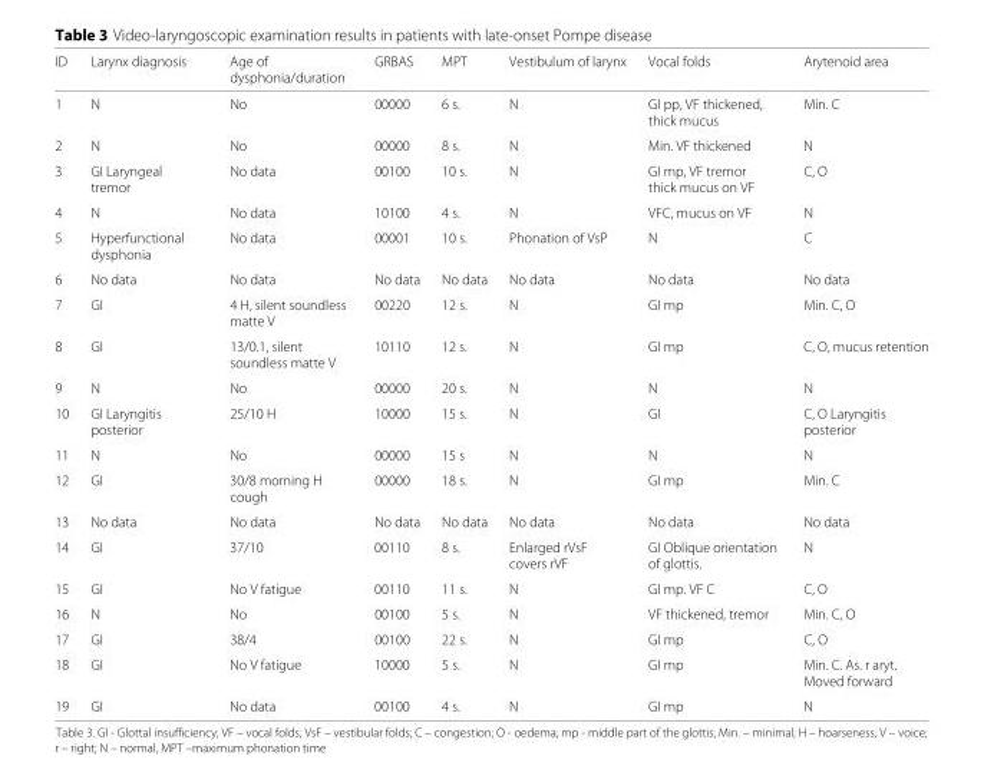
<table><thead><tr><td>ID</td><td>Larynx diagnosis</td><td>Age of dysphonia/duration</td><td>GRBAS</td><td>MPT</td><td>Vestibulum of larynx</td><td>Vocal folds</td><td>Arytenoid area</td></tr></thead><tbody><tr><td>1</td><td>N</td><td>No</td><td>00000</td><td>6 s.</td><td>N</td><td>GI pp, VF thickened, thick mucus</td><td>Min. C</td></tr><tr><td>2</td><td>N</td><td>No</td><td>00000</td><td>8 s.</td><td>N</td><td>Min. VF thickened</td><td>N</td></tr><tr><td>3</td><td>GI Laryngeal tremor</td><td>No data</td><td>00100</td><td>10 s.</td><td>N</td><td>GI mp, VF tremor thick mucus on VF</td><td>C, O</td></tr><tr><td>4</td><td>N</td><td>No data</td><td>10100</td><td>4 s.</td><td>N</td><td>VFC, mucus on VF</td><td>N</td></tr><tr><td>5</td><td>Hyperfunctional dysphonia</td><td>No data</td><td>00001</td><td>10 s.</td><td>Phonation of VsP</td><td>N</td><td>C</td></tr><tr><td>6</td><td>No data</td><td>No data</td><td>No data</td><td>No data</td><td>No data</td><td>No data</td><td>No data</td></tr><tr><td>7</td><td>GI</td><td>4 H, silent soundless matte V</td><td>00220</td><td>12 s.</td><td>N</td><td>GI mp</td><td>Min. C, O</td></tr><tr><td>8</td><td>GI</td><td>13/0.1, silent soundless matte V</td><td>10110</td><td>12 s.</td><td>N</td><td>GI mp</td><td>C, O, mucus retention</td></tr><tr><td>9</td><td>N</td><td>No</td><td>00000</td><td>20 s.</td><td>N</td><td>N</td><td>N</td></tr><tr><td>10</td><td>GI Laryngitis posterior</td><td>25/10 H</td><td>10000</td><td>15 s.</td><td>N</td><td>GI</td><td>C, O Laryngitis posterior</td></tr><tr><td>11</td><td>N</td><td>No</td><td>00000</td><td>15 s</td><td>N</td><td>N</td><td>N</td></tr><tr><td>12</td><td>GI</td><td>30/8 morning H cough</td><td>00000</td><td>18 s.</td><td>N</td><td>GI mp</td><td>Min. C</td></tr><tr><td>13</td><td>No data</td><td>No data</td><td>No data</td><td>No data</td><td>No data</td><td>No data</td><td>No data</td></tr><tr><td>14</td><td>GI</td><td>37/10</td><td>00110</td><td>8 s.</td><td>Enlarged rVsF covers rVF</td><td>GI Oblique orientation of glottis.</td><td>N</td></tr><tr><td>15</td><td>GI</td><td>No V fatigue</td><td>00110</td><td>11 s.</td><td>N</td><td>GI mp. VF C</td><td>C, O</td></tr><tr><td>16</td><td>N</td><td>No</td><td>00100</td><td>5 s.</td><td>N</td><td>VF thickened, tremor</td><td>Min. C, O</td></tr><tr><td>17</td><td>GI</td><td>38/4</td><td>00100</td><td>22 s.</td><td>N</td><td>GI mp</td><td>C, O</td></tr><tr><td>18</td><td>GI</td><td>No V fatigue</td><td>10000</td><td>5 s.</td><td>N</td><td>GI mp</td><td>Min. C. As. r aryt. Moved forward</td></tr><tr><td>19</td><td>GI</td><td>No data</td><td>00100</td><td>4 s.</td><td>N</td><td>GI mp</td><td>N</td></tr></tbody></table>